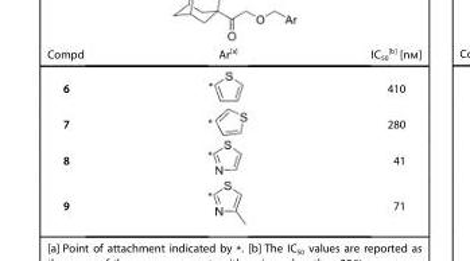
<table><thead><tr><td>Compd</td><td>Ar[a]</td><td>IC<sub>50</sub> [b] [nm]</td></tr></thead><tbody><tr><td>6</td><td></td><td>410</td></tr><tr><td>7</td><td></td><td>280</td></tr><tr><td>8</td><td></td><td>41</td></tr><tr><td>9</td><td></td><td>71</td></tr></tbody></table>